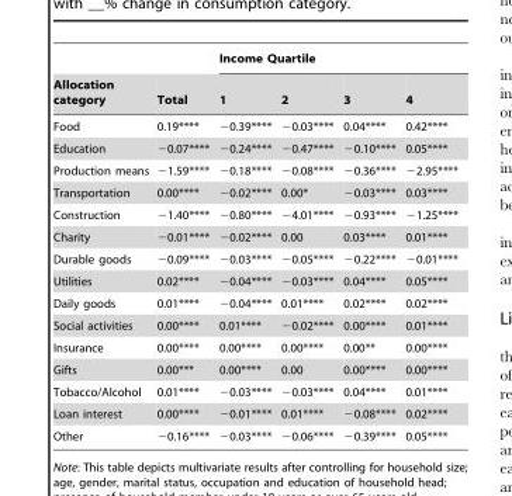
<table><thead><tr><td rowspan="2">Allocation category</td><td rowspan="2">Total</td><td colspan="4">Income Quartile</td></tr><tr><td>1</td><td>2</td><td>3</td><td>4</td></tr></thead><tbody><tr><td>Food</td><td>0.19****</td><td>−0.39****</td><td>−0.03****</td><td>0.04****</td><td>0.42****</td></tr><tr><td>Education</td><td>−0.07****</td><td>−0.24****</td><td>−0.47****</td><td>−0.10****</td><td>0.05****</td></tr><tr><td>Production means</td><td>−1.59****</td><td>−0.18****</td><td>−0.08****</td><td>−0.36****</td><td>−2.95****</td></tr><tr><td>Transportation</td><td>0.00****</td><td>−0.02****</td><td>0.00*</td><td>−0.03****</td><td>0.03****</td></tr><tr><td>Construction</td><td>−1.40****</td><td>−0.80****</td><td>−4.01****</td><td>−0.93****</td><td>−1.25****</td></tr><tr><td>Charity</td><td>−0.01****</td><td>−0.02****</td><td>0.00</td><td>0.03****</td><td>0.01****</td></tr><tr><td>Durable goods</td><td>−0.09****</td><td>−0.03****</td><td>−0.05****</td><td>−0.22****</td><td>−0.01****</td></tr><tr><td>Utilities</td><td>0.02****</td><td>−0.04****</td><td>−0.03****</td><td>0.04****</td><td>0.05****</td></tr><tr><td>Daily goods</td><td>0.01****</td><td>−0.04****</td><td>0.01****</td><td>0.02****</td><td>0.02****</td></tr><tr><td>Social activities</td><td>0.00****</td><td>0.01****</td><td>−0.02****</td><td>0.00****</td><td>0.01****</td></tr><tr><td>Insurance</td><td>0.00****</td><td>0.00****</td><td>0.00****</td><td>0.00**</td><td>0.00****</td></tr><tr><td>Gifts</td><td>0.00***</td><td>0.00****</td><td>0.00</td><td>0.00****</td><td>0.00****</td></tr><tr><td>Tobacco/Alcohol</td><td>0.01****</td><td>−0.03****</td><td>−0.03****</td><td>0.04****</td><td>0.01****</td></tr><tr><td>Loan interest</td><td>0.00****</td><td>−0.01****</td><td>0.01****</td><td>−0.08****</td><td>0.02****</td></tr><tr><td>Other</td><td>−0.16****</td><td>−0.03****</td><td>−0.06****</td><td>−0.39****</td><td>0.05****</td></tr></tbody></table>